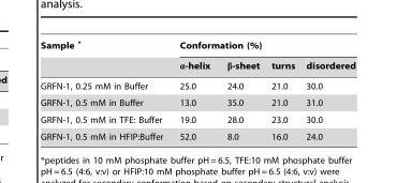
<table><thead><tr><td rowspan="2">Sample *</td><td colspan="4">Conformation (%)</td></tr><tr><td>α-helix</td><td>β-sheet</td><td>turns</td><td>disordered</td></tr></thead><tbody><tr><td>GRFN-1, 0.25 mM in Buffer</td><td>25.0</td><td>24.0</td><td>21.0</td><td>30.0</td></tr><tr><td>GRFN-1, 0.5 mM in Buffer</td><td>13.0</td><td>35.0</td><td>21.0</td><td>31.0</td></tr><tr><td>GRFN-1, 0.5 mM in TFE: Buffer</td><td>19.0</td><td>28.0</td><td>23.0</td><td>30.0</td></tr><tr><td>GRFN-1, 0.5 mM in HFIP:Buffer</td><td>52.0</td><td>8.0</td><td>16.0</td><td>24.0</td></tr></tbody></table>